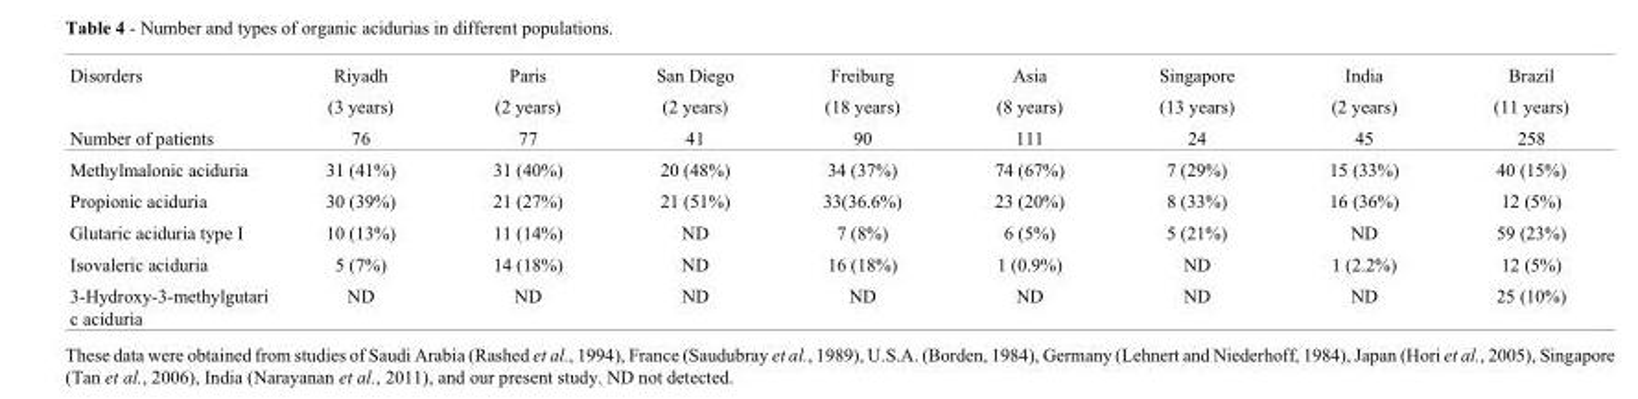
<table><thead><tr><td rowspan="3">Disorders Number of patients</td><td rowspan="3">Riyadh (3 years) 76</td><td rowspan="3">Paris (2 years) 77</td><td rowspan="3">San Diego (2 years) 41</td><td rowspan="3">Freiburg (18 years) 90</td><td rowspan="3">Asia (8 years) 111</td><td rowspan="3">Singapore (13 years) 24</td><td rowspan="3">India (2 years) 45</td><td rowspan="3">Brazil (11 years) 258</td></tr><tr></tr><tr></tr></thead><tbody><tr><td>Methylmalonic aciduria</td><td>31 (41%)</td><td>31 (40%)</td><td>20 (48%)</td><td>34 (37%)</td><td>74 (67%)</td><td>7 (29%)</td><td>15 (33%)</td><td>40 (15%)</td></tr><tr><td>Propionic aciduria</td><td>30 (39%)</td><td>21 (27%)</td><td>21 (51%)</td><td>33(36.6%)</td><td>23 (20%)</td><td>8 (33%)</td><td>16 (36%)</td><td>12 (5%)</td></tr><tr><td>Glutaric aciduria type I</td><td>10 (13%)</td><td>11 (14%)</td><td>ND</td><td>7 (8%)</td><td>6 (5%)</td><td>5 (21%)</td><td>ND</td><td>59 (23%)</td></tr><tr><td>Isovaleric aciduria</td><td>5 (7%)</td><td>14 (18%)</td><td>ND</td><td>16 (18%)</td><td>1 (0.9%)</td><td>ND</td><td>1 (2.2%)</td><td>12 (5%)</td></tr><tr><td>3-Hydroxy-3-methylgutari c aciduria</td><td>ND</td><td>ND</td><td>ND</td><td>ND</td><td>ND</td><td>ND</td><td>ND</td><td>25 (10%)</td></tr></tbody></table>